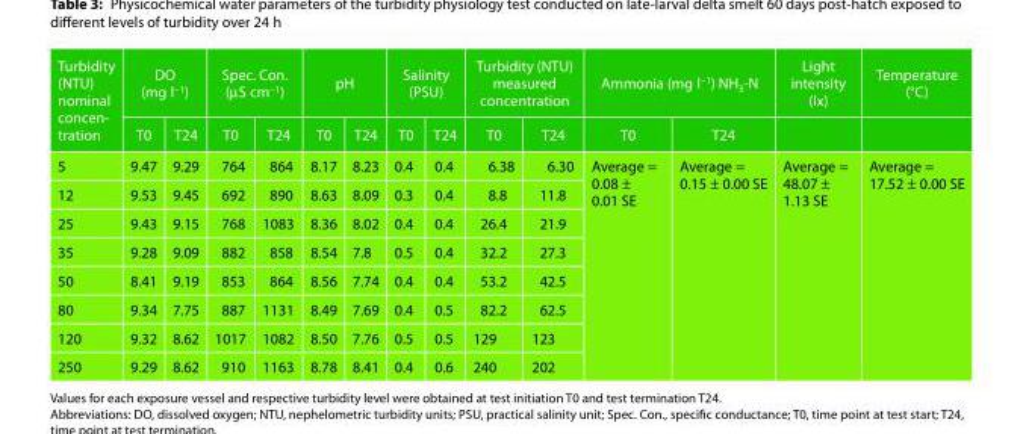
<table><thead><tr><td rowspan="2">Turbidity (NTU) nominal concen- tration</td><td colspan="2">DO (mg l<sup>−1</sup>)</td><td colspan="2">Spec. Con. (µS cm<sup>−1</sup>)</td><td colspan="2">pH</td><td colspan="2">Salinity (PSU)</td><td colspan="2">Turbidity (NTU) measured concentration</td><td colspan="2">Ammonia (mg l<sup>−1</sup>) NH<sub>3</sub>-N</td><td rowspan="2">Light intensity (lx)</td><td rowspan="2">Temperature (°C)</td></tr><tr><td>T0</td><td>T24</td><td>T0</td><td>T24</td><td>T0</td><td>T24</td><td>T0</td><td>T24</td><td>T0</td><td>T24</td><td>T0</td><td>T24</td></tr></thead><tbody><tr><td>5</td><td>9.47</td><td>9.29</td><td>764</td><td>864</td><td>8.17</td><td>8.23</td><td>0.4</td><td>0.4</td><td>6.38</td><td>6.30</td><td rowspan="8">Average = 0.08 ± 0.01 SE</td><td rowspan="8">Average = 0.15 ± 0.00 SE</td><td rowspan="8">Average = 48.07 ± 1.13 SE</td><td rowspan="8">Average = 17.52 ± 0.00 SE</td></tr><tr><td>12</td><td>9.53</td><td>9.45</td><td>692</td><td>890</td><td>8.63</td><td>8.09</td><td>0.3</td><td>0.4</td><td>8.8</td><td>11.8</td></tr><tr><td>25</td><td>9.43</td><td>9.15</td><td>768</td><td>1083</td><td>8.36</td><td>8.02</td><td>0.4</td><td>0.4</td><td>26.4</td><td>21.9</td></tr><tr><td>35</td><td>9.28</td><td>9.09</td><td>882</td><td>858</td><td>8.54</td><td>7.8</td><td>0.5</td><td>0.4</td><td>32.2</td><td>27.3</td></tr><tr><td>50</td><td>8.41</td><td>9.19</td><td>853</td><td>864</td><td>8.56</td><td>7.74</td><td>0.4</td><td>0.4</td><td>53.2</td><td>42.5</td></tr><tr><td>80</td><td>9.34</td><td>7.75</td><td>887</td><td>1131</td><td>8.49</td><td>7.69</td><td>0.4</td><td>0.5</td><td>82.2</td><td>62.5</td></tr><tr><td>120</td><td>9.32</td><td>8.62</td><td>1017</td><td>1082</td><td>8.50</td><td>7.76</td><td>0.5</td><td>0.5</td><td>129</td><td>123</td></tr><tr><td>250</td><td>9.29</td><td>8.62</td><td>910</td><td>1163</td><td>8.78</td><td>8.41</td><td>0.4</td><td>0.6</td><td>240</td><td>202</td></tr></tbody></table>